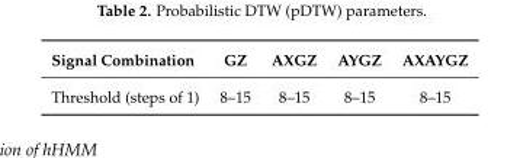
<table><thead><tr><td>Signal Combination</td><td>GZ</td><td>AXGZ</td><td>AYGZ</td><td>AXAYGZ</td></tr></thead><tbody><tr><td>Threshold (steps of 1)</td><td>8–15</td><td>8–15</td><td>8–15</td><td>8–15</td></tr></tbody></table>